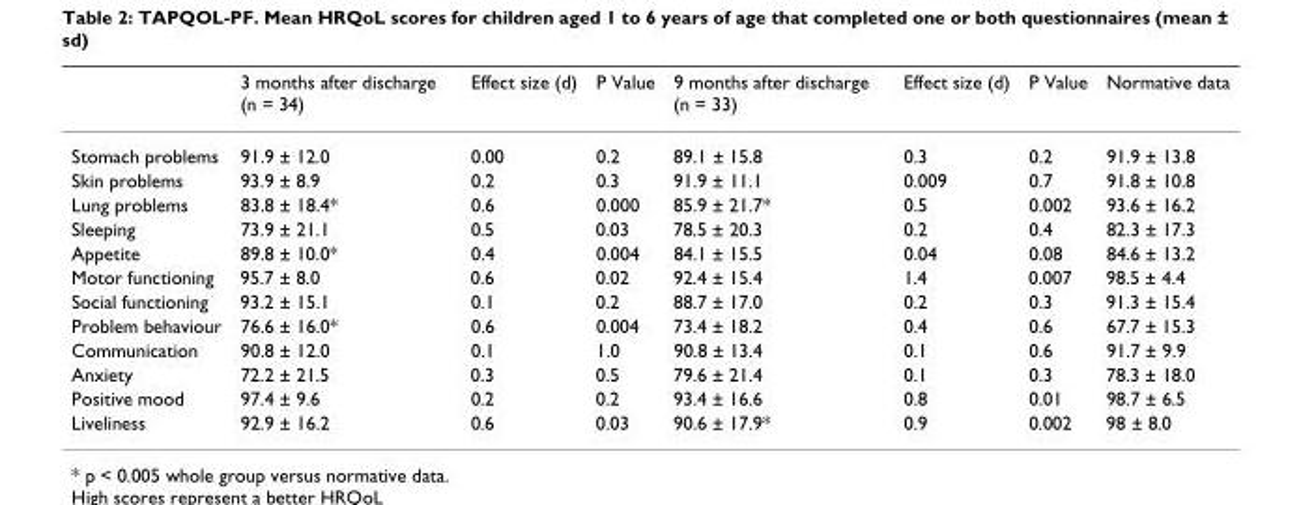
<table><thead><tr><td></td><td>3 months after discharge (n = 34)</td><td>Effect size (d)</td><td>P Value</td><td>9 months after discharge (n = 33)</td><td>Effect size (d)</td><td>P Value</td><td>Normative data</td></tr></thead><tbody><tr><td>Stomach problems</td><td>91.9 ± 12.0</td><td>0.00</td><td>0.2</td><td>89.1 ± 15.8</td><td>0.3</td><td>0.2</td><td>91.9 ± 13.8</td></tr><tr><td>Skin problems</td><td>93.9 ± 8.9</td><td>0.2</td><td>0.3</td><td>91.9 ± 11.1</td><td>0.009</td><td>0.7</td><td>91.8 ± 10.8</td></tr><tr><td>Lung problems</td><td>83.8 ± 18.4*</td><td>0.6</td><td>0.000</td><td>85.9 ± 21.7*</td><td>0.5</td><td>0.002</td><td>93.6 ± 16.2</td></tr><tr><td>Sleeping</td><td>73.9 ± 21.1</td><td>0.5</td><td>0.03</td><td>78.5 ± 20.3</td><td>0.2</td><td>0.4</td><td>82.3 ± 17.3</td></tr><tr><td>Appetite</td><td>89.8 ± 10.0*</td><td>0.4</td><td>0.004</td><td>84.1 ± 15.5</td><td>0.04</td><td>0.08</td><td>84.6 ± 13.2</td></tr><tr><td>Motor functioning</td><td>95.7 ± 8.0</td><td>0.6</td><td>0.02</td><td>92.4 ± 15.4</td><td>1.4</td><td>0.007</td><td>98.5 ± 4.4</td></tr><tr><td>Social functioning</td><td>93.2 ± 15.1</td><td>0.1</td><td>0.2</td><td>88.7 ± 17.0</td><td>0.2</td><td>0.3</td><td>91.3 ± 15.4</td></tr><tr><td>Problem behaviour</td><td>76.6 ± 16.0*</td><td>0.6</td><td>0.004</td><td>73.4 ± 18.2</td><td>0.4</td><td>0.6</td><td>67.7 ± 15.3</td></tr><tr><td>Communication</td><td>90.8 ± 12.0</td><td>0.1</td><td>1.0</td><td>90.8 ± 13.4</td><td>0.1</td><td>0.6</td><td>91.7 ± 9.9</td></tr><tr><td>Anxiety</td><td>72.2 ± 21.5</td><td>0.3</td><td>0.5</td><td>79.6 ± 21.4</td><td>0.1</td><td>0.3</td><td>78.3 ± 18.0</td></tr><tr><td>Positive mood</td><td>97.4 ± 9.6</td><td>0.2</td><td>0.2</td><td>93.4 ± 16.6</td><td>0.8</td><td>0.01</td><td>98.7 ± 6.5</td></tr><tr><td>Liveliness</td><td>92.9 ± 16.2</td><td>0.6</td><td>0.03</td><td>90.6 ± 17.9*</td><td>0.9</td><td>0.002</td><td>98 ± 8.0</td></tr></tbody></table>